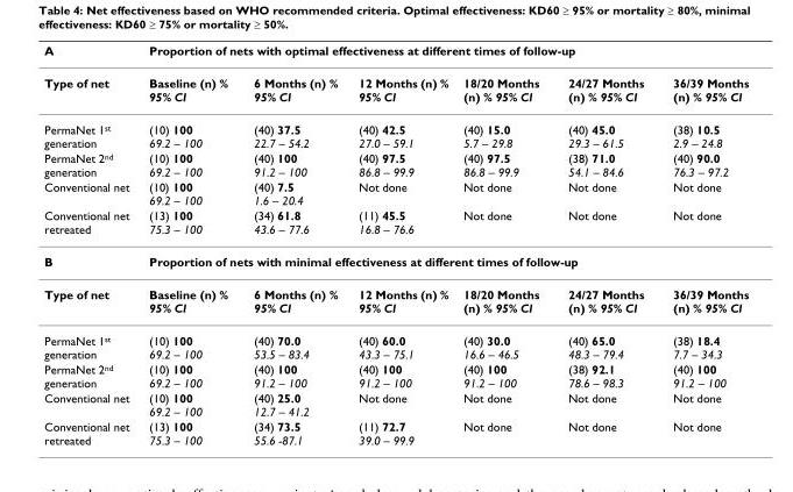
<table><thead><tr><td rowspan="2">A Type of net</td><td colspan="6">Proportion of nets with optimal effectiveness at different times of follow-up</td></tr><tr><td>Baseline (n) % 95% CI</td><td>6 Months (n) % 95% CI</td><td>12 Months (n) % 95% CI</td><td>18/20 Months (n) % 95% CI</td><td>24/27 Months (n) % 95% CI</td><td>36/39 Months (n) % 95% CI</td></tr></thead><tbody><tr><td>PermaNet 1<sup>st</sup> generation</td><td>(10) 100 69.2 – 100</td><td>(40) 37.5 22.7 – 54.2</td><td>(40) 42.5 27.0 – 59.1</td><td>(40) 15.0 5.7 – 29.8</td><td>(40) 45.0 29.3 – 61.5</td><td>(38) 10.5 2.9 – 24.8</td></tr><tr><td>PermaNet 2<sup>nd</sup> generation</td><td>(10) 100 69.2 – 100</td><td>(40) 100 91.2 – 100</td><td>(40) 97.5 86.8 – 99.9</td><td>(40) 97.5 86.8 – 99.9</td><td>(38) 71.0 54.1 – 84.6</td><td>(40) 90.0 76.3 – 97.2</td></tr><tr><td>Conventional net</td><td>(10) 100 69.2 – 100</td><td>(40) 7.5 1.6 – 20.4</td><td>Not done</td><td>Not done</td><td>Not done</td><td>Not done</td></tr><tr><td>Conventional net retreated</td><td>(13) 100 75.3 – 100</td><td>(34) 61.8 43.6 – 77.6</td><td>(11) 45.5 16.8 – 76.6</td><td>Not done</td><td>Not done</td><td>Not done</td></tr><tr><td>B</td><td colspan="6">Proportion of nets with minimal effectiveness at different times of follow-up</td></tr><tr><td>Type of net</td><td>Baseline (n) % 95% CI</td><td>6 Months (n) % 95% CI</td><td>12 Months (n) % 95% CI</td><td>18/20 Months (n) % 95% CI</td><td>24/27 Months (n) % 95% CI</td><td>36/39 Months (n) % 95% CI</td></tr><tr><td>PermaNet 1<sup>st</sup> generation</td><td>(10) 100 69.2 – 100</td><td>(40) 70.0 53.5 – 83.4</td><td>(40) 60.0 43.3 – 75.1</td><td>(40) 30.0 16.6 – 46.5</td><td>(40) 65.0 48.3 – 79.4</td><td>(38) 18.4 7.7 – 34.3</td></tr><tr><td>PermaNet 2<sup>nd</sup> generation</td><td>(10) 100 69.2 – 100</td><td>(40) 100 91.2 – 100</td><td>(40) 100 91.2 – 100</td><td>(40) 100 91.2 – 100</td><td>(38) 92.1 78.6 – 98.3</td><td>(40) 100 91.2 – 100</td></tr><tr><td>Conventional net</td><td>(10) 100 69.2 – 100</td><td>(40) 25.0 12.7 – 41.2</td><td>Not done</td><td>Not done</td><td>Not done</td><td>Not done</td></tr><tr><td>Conventional net retreated</td><td>(13) 100 75.3 – 100</td><td>(34) 73.5 55.6 -87.1</td><td>(11) 72.7 39.0 – 99.9</td><td>Not done</td><td>Not done</td><td>Not done</td></tr></tbody></table>